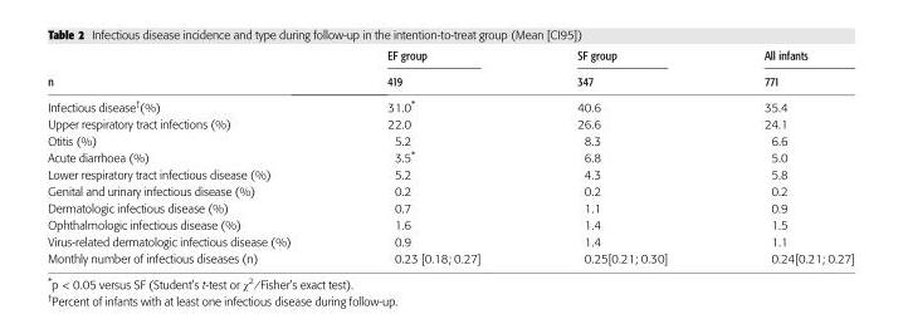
<table><thead><tr><td rowspan="2">n</td><td rowspan="2">EF group 419</td><td rowspan="2">SF group 347</td><td rowspan="2">All infants 771</td></tr><tr></tr></thead><tbody><tr><td>Infectious disease†(%)</td><td>31.0*</td><td>40.6</td><td>35.4</td></tr><tr><td>Upper respiratory tract infections (%)</td><td>22.0</td><td>26.6</td><td>24.1</td></tr><tr><td>Otitis (%)</td><td>5.2</td><td>8.3</td><td>6.6</td></tr><tr><td>Acute diarrhoea (%)</td><td>3.5*</td><td>6.8</td><td>5.0</td></tr><tr><td>Lower respiratory tract infectious disease (%)</td><td>5.2</td><td>4.3</td><td>5.8</td></tr><tr><td>Genital and urinary infectious disease (%)</td><td>0.2</td><td>0.2</td><td>0.2</td></tr><tr><td>Dermatologic infectious disease (%)</td><td>0.7</td><td>1.1</td><td>0.9</td></tr><tr><td>Ophthalmologic infectious disease (%)</td><td>1.6</td><td>1.4</td><td>1.5</td></tr><tr><td>Virus-related dermatologic infectious disease (%)</td><td>0.9</td><td>1.4</td><td>1.1</td></tr><tr><td>Monthly number of infectious diseases (n)</td><td>0.23 [0.18; 0.27]</td><td>0.25[0.21; 0.30]</td><td>0.24[0.21; 0.27]</td></tr></tbody></table>